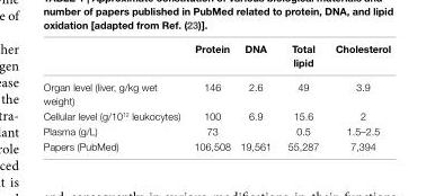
<table><thead><tr><td></td><td>Protein</td><td>DNA</td><td>Total lipid</td><td>Cholesterol</td></tr></thead><tbody><tr><td>Organ level (liver, g/kg wet weight)</td><td>146</td><td>2.6</td><td>49</td><td>3.9</td></tr><tr><td>Cellular level (g/10<sup>12</sup> leukocytes)</td><td>100</td><td>6.9</td><td>15.6</td><td>2</td></tr><tr><td>Plasma (g/L)</td><td>73</td><td></td><td>0.5</td><td>1.5–2.5</td></tr><tr><td>Papers (PubMed)</td><td>106,508</td><td>19,561</td><td>55,287</td><td>7,394</td></tr></tbody></table>